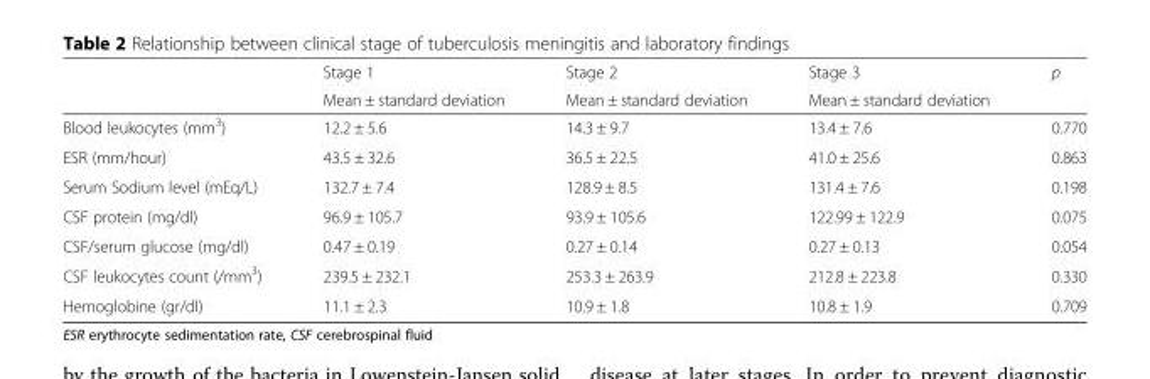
<table><thead><tr><td rowspan="2"></td><td rowspan="2">Stage 1 Mean ± standard deviation</td><td rowspan="2">Stage 2 Mean ± standard deviation</td><td rowspan="2">Stage 3 Mean ± standard deviation</td><td rowspan="2">p</td></tr><tr></tr></thead><tbody><tr><td>Blood leukocytes (mm<sup>3</sup>)</td><td>12.2 ± 5.6</td><td>14.3 ± 9.7</td><td>13.4 ± 7.6</td><td>0.770</td></tr><tr><td>ESR (mm/hour)</td><td>43.5 ± 32.6</td><td>36.5 ± 22.5</td><td>41.0 ± 25.6</td><td>0.863</td></tr><tr><td>Serum Sodium level (mEq/L)</td><td>132.7 ± 7.4</td><td>128.9 ± 8.5</td><td>131.4 ± 7.6</td><td>0.198</td></tr><tr><td>CSF protein (mg/dl)</td><td>96.9 ± 105.7</td><td>93.9 ± 105.6</td><td>122.99 ± 122.9</td><td>0.075</td></tr><tr><td>CSF/serum glucose (mg/dl)</td><td>0.47 ± 0.19</td><td>0.27 ± 0.14</td><td>0.27 ± 0.13</td><td>0.054</td></tr><tr><td>CSF leukocytes count (/mm<sup>3</sup>)</td><td>239.5 ± 232.1</td><td>253.3 ± 263.9</td><td>212.8 ± 223.8</td><td>0.330</td></tr><tr><td>Hemoglobine (gr/dl)</td><td>11.1 ± 2.3</td><td>10.9 ± 1.8</td><td>10.8 ± 1.9</td><td>0.709</td></tr></tbody></table>